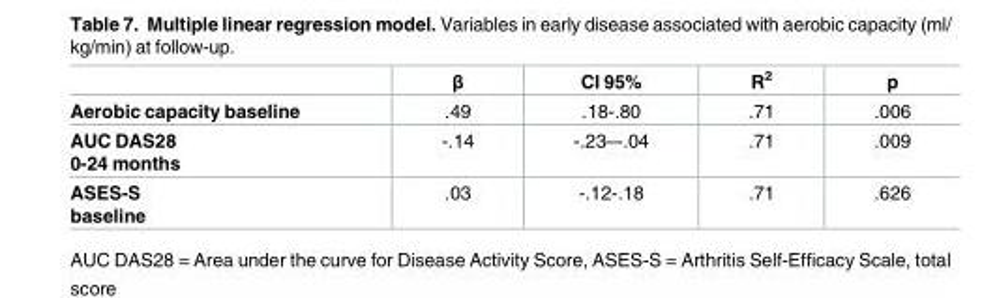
<table><thead><tr><td></td><td>β</td><td>CI 95%</td><td>R<sup>2</sup></td><td>p</td></tr></thead><tbody><tr><td>Aerobic capacity baseline</td><td>.49</td><td>.18-.80</td><td>.71</td><td>.006</td></tr><tr><td>AUC DAS28 0-24 months</td><td>-.14</td><td>-.23–-.04</td><td>.71</td><td>.009</td></tr><tr><td>ASES-S baseline</td><td>.03</td><td>-.12-.18</td><td>.71</td><td>.626</td></tr></tbody></table>